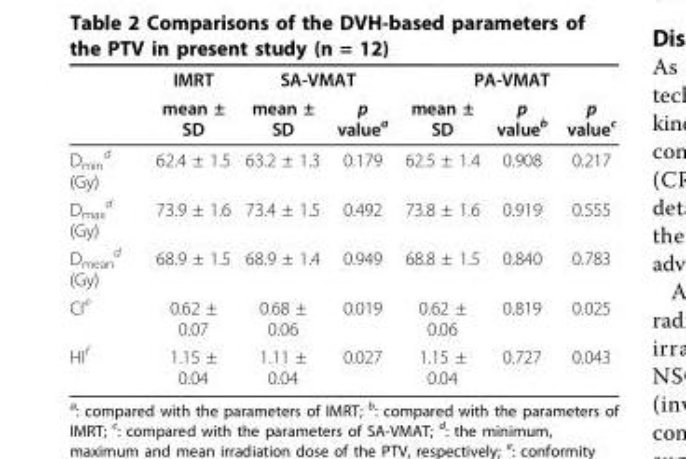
<table><thead><tr><td rowspan="2"></td><td rowspan="2">IMRT mean ± SD</td><td colspan="2">SA-VMAT</td><td colspan="3">PA-VMAT</td></tr><tr><td>mean ± SD</td><td>p value<sup>a</sup></td><td>mean ± SD</td><td>p value<sup>b</sup></td><td>p value<sup>c</sup></td></tr></thead><tbody><tr><td>D<sub>min</sub> <sup>d</sup> (Gy)</td><td>62.4 ± 1.5</td><td>63.2 ± 1.3</td><td>0.179</td><td>62.5 ± 1.4</td><td>0.908</td><td>0.217</td></tr><tr><td>D<sub>max</sub> <sup>d</sup> (Gy)</td><td>73.9 ± 1.6</td><td>73.4 ± 1.5</td><td>0.492</td><td>73.8 ± 1.6</td><td>0.919</td><td>0.555</td></tr><tr><td>D<sub>mean</sub> <sup>d</sup> (Gy)</td><td>68.9 ± 1.5</td><td>68.9 ± 1.4</td><td>0.949</td><td>68.8 ± 1.5</td><td>0.840</td><td>0.783</td></tr><tr><td>CI<sup>e</sup></td><td>0.62 ± 0.07</td><td>0.68 ± 0.06</td><td>0.019</td><td>0.62 ± 0.06</td><td>0.819</td><td>0.025</td></tr><tr><td>HI<sup>f</sup></td><td>1.15 ± 0.04</td><td>1.11 ± 0.04</td><td>0.027</td><td>1.15 ± 0.04</td><td>0.727</td><td>0.043</td></tr></tbody></table>